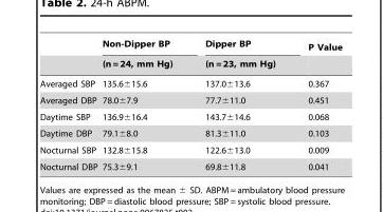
<table><thead><tr><td rowspan="2"></td><td rowspan="2">Non-Dipper BP (n = 24, mm Hg)</td><td rowspan="2">Dipper BP (n = 23, mm Hg)</td><td rowspan="2">P Value</td></tr><tr></tr></thead><tbody><tr><td>Averaged SBP</td><td>135.6±15.6</td><td>137.0±13.6</td><td>0.367</td></tr><tr><td>Averaged DBP</td><td>78.0±7.9</td><td>77.7±11.0</td><td>0.451</td></tr><tr><td>Daytime SBP</td><td>136.9±16.4</td><td>143.7±14.6</td><td>0.068</td></tr><tr><td>Daytime DBP</td><td>79.1±8.0</td><td>81.3±11.0</td><td>0.103</td></tr><tr><td>Nocturnal SBP</td><td>132.8±15.8</td><td>122.6±13.0</td><td>0.009</td></tr><tr><td>Nocturnal DBP</td><td>75.3±9.1</td><td>69.8±11.8</td><td>0.041</td></tr></tbody></table>